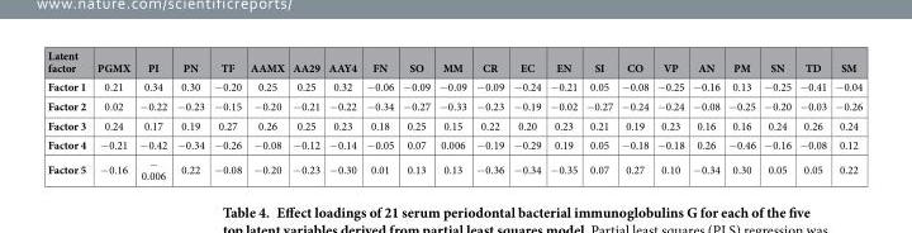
<table><thead><tr><td>Latent factor</td><td>PGMX</td><td>PI</td><td>PN</td><td>TF</td><td>AAMX</td><td>AA29</td><td>AAY4</td><td>FN</td><td>SO</td><td>MM</td><td>CR</td><td>EC</td><td>EN</td><td>SI</td><td>CO</td><td>VP</td><td>AN</td><td>PM</td><td>SN</td><td>TD</td><td>SM</td></tr></thead><tbody><tr><td>Factor 1</td><td>0.21</td><td>0.34</td><td>0.30</td><td>− 0.20</td><td>0.25</td><td>0.25</td><td>0.32</td><td>− 0.06</td><td>− 0.09</td><td>− 0.09</td><td>− 0.09</td><td>− 0.24</td><td>− 0.21</td><td>0.05</td><td>− 0.08</td><td>− 0.25</td><td>− 0.16</td><td>0.13</td><td>− 0.25</td><td>− 0.41</td><td>− 0.04</td></tr><tr><td>Factor 2</td><td>0.02</td><td>− 0.22</td><td>− 0.23</td><td>− 0.15</td><td>− 0.20</td><td>− 0.21</td><td>− 0.22</td><td>− 0.34</td><td>− 0.27</td><td>− 0.33</td><td>− 0.23</td><td>− 0.19</td><td>− 0.02</td><td>− 0.27</td><td>− 0.24</td><td>− 0.24</td><td>− 0.08</td><td>− 0.25</td><td>− 0.20</td><td>− 0.03</td><td>− 0.26</td></tr><tr><td>Factor 3</td><td>0.24</td><td>0.17</td><td>0.19</td><td>0.27</td><td>0.26</td><td>0.25</td><td>0.23</td><td>0.18</td><td>0.25</td><td>0.15</td><td>0.22</td><td>0.20</td><td>0.23</td><td>0.21</td><td>0.19</td><td>0.23</td><td>0.16</td><td>0.16</td><td>0.24</td><td>0.26</td><td>0.24</td></tr><tr><td>Factor 4</td><td>− 0.21</td><td>− 0.42</td><td>− 0.34</td><td>− 0.26</td><td>− 0.08</td><td>− 0.12</td><td>− 0.14</td><td>− 0.05</td><td>0.07</td><td>0.006</td><td>− 0.19</td><td>− 0.29</td><td>0.19</td><td>0.05</td><td>− 0.18</td><td>− 0.18</td><td>0.26</td><td>− 0.46</td><td>− 0.16</td><td>− 0.08</td><td>0.12</td></tr><tr><td>Factor 5</td><td>− 0.16</td><td>− 0.006</td><td>0.22</td><td>− 0.08</td><td>− 0.20</td><td>− 0.23</td><td>− 0.30</td><td>0.01</td><td>0.13</td><td>0.13</td><td>− 0.36</td><td>− 0.34</td><td>− 0.35</td><td>0.07</td><td>0.27</td><td>0.10</td><td>− 0.34</td><td>0.30</td><td>0.05</td><td>0.05</td><td>0.22</td></tr></tbody></table>